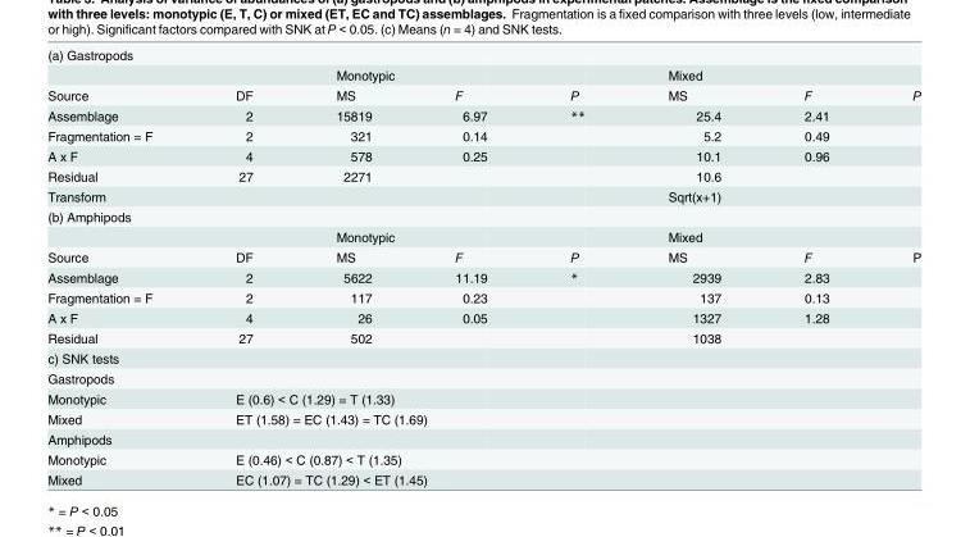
<table><tbody><tr><td colspan="8">(a) Gastropods</td></tr><tr><td></td><td></td><td colspan="2">Monotypic</td><td></td><td>Mixed</td><td></td><td></td></tr><tr><td>Source</td><td>DF</td><td>MS</td><td>F</td><td>P</td><td>MS</td><td>F</td><td>P</td></tr><tr><td>Assemblage</td><td>2</td><td>15819</td><td>6.97</td><td>**</td><td>25.4</td><td>2.41</td><td></td></tr><tr><td>Fragmentation = F</td><td>2</td><td>321</td><td>0.14</td><td></td><td>5.2</td><td>0.49</td><td></td></tr><tr><td>A x F</td><td>4</td><td>578</td><td>0.25</td><td></td><td>10.1</td><td>0.96</td><td></td></tr><tr><td>Residual</td><td>27</td><td>2271</td><td></td><td></td><td>10.6</td><td></td><td></td></tr><tr><td>Transform</td><td></td><td></td><td></td><td></td><td>Sqrt(x+1)</td><td></td><td></td></tr><tr><td colspan="8">(b) Amphipods</td></tr><tr><td></td><td></td><td colspan="2">Monotypic</td><td></td><td>Mixed</td><td></td><td></td></tr><tr><td>Source</td><td>DF</td><td>MS</td><td>F</td><td>P</td><td>MS</td><td>F</td><td>P</td></tr><tr><td>Assemblage</td><td>2</td><td>5622</td><td>11.19</td><td>*</td><td>2939</td><td>2.83</td><td></td></tr><tr><td>Fragmentation = F</td><td>2</td><td>117</td><td>0.23</td><td></td><td>137</td><td>0.13</td><td></td></tr><tr><td>A x F</td><td>4</td><td>26</td><td>0.05</td><td></td><td>1327</td><td>1.28</td><td></td></tr><tr><td>Residual</td><td>27</td><td>502</td><td></td><td></td><td>1038</td><td></td><td></td></tr><tr><td colspan="8">c) SNK tests</td></tr><tr><td colspan="8">Gastropods</td></tr><tr><td>Monotypic</td><td colspan="3">E (0.6) &lt; C (1.29) = T (1.33)</td><td></td><td></td><td></td><td></td></tr><tr><td>Mixed</td><td colspan="5">ET (1.58) = EC (1.43) = TC (1.69)</td><td></td><td></td></tr><tr><td colspan="8">Amphipods</td></tr><tr><td>Monotypic</td><td colspan="4">E (0.46) &lt; C (0.87) &lt; T (1.35)</td><td></td><td></td><td></td></tr><tr><td>Mixed</td><td colspan="5">EC (1.07) = TC (1.29) &lt; ET (1.45)</td><td></td><td></td></tr></tbody></table>